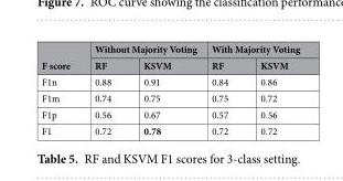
<table><thead><tr><td rowspan="2">F score</td><td colspan="2">Without Majority Voting</td><td colspan="2">With Majority Voting</td></tr><tr><td>RF</td><td>KSVM</td><td>RF</td><td>KSVM</td></tr></thead><tbody><tr><td>F1n</td><td>0.88</td><td>0.91</td><td>0.84</td><td>0.86</td></tr><tr><td>F1m</td><td>0.74</td><td>0.75</td><td>0.75</td><td>0.72</td></tr><tr><td>F1p</td><td>0.56</td><td>0.67</td><td>0.57</td><td>0.56</td></tr><tr><td>F1</td><td>0.72</td><td>0.78</td><td>0.72</td><td>0.72</td></tr></tbody></table>